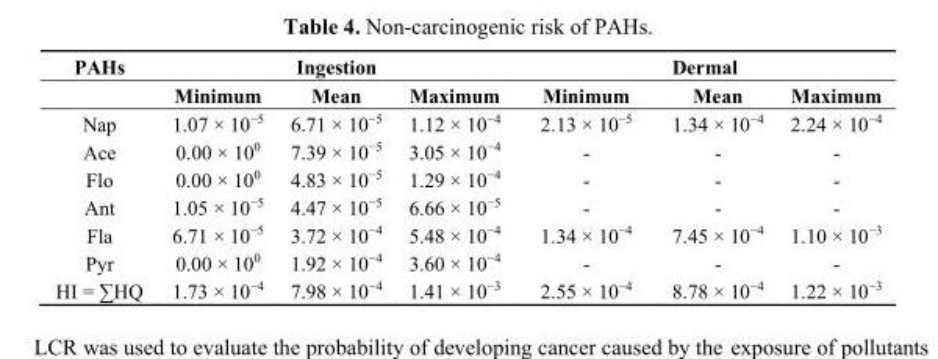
<table><thead><tr><td rowspan="2">PAHs</td><td colspan="3">Ingestion</td><td colspan="3">Dermal</td></tr><tr><td>Minimum</td><td>Mean</td><td>Maximum</td><td>Minimum</td><td>Mean</td><td>Maximum</td></tr></thead><tbody><tr><td>Nap</td><td>1.07 × 10<sup>−5</sup></td><td>6.71 × 10<sup>−5</sup></td><td>1.12 × 10<sup>−4</sup></td><td>2.13 × 10<sup>−5</sup></td><td>1.34 × 10<sup>−4</sup></td><td>2.24 × 10<sup>−4</sup></td></tr><tr><td>Ace</td><td>0.00 × 10<sup>0</sup></td><td>7.39 × 10<sup>−5</sup></td><td>3.05 × 10<sup>−4</sup></td><td>-</td><td>-</td><td>-</td></tr><tr><td>Flo</td><td>0.00 × 10<sup>0</sup></td><td>4.83 × 10<sup>−5</sup></td><td>1.29 × 10<sup>−4</sup></td><td>-</td><td>-</td><td>-</td></tr><tr><td>Ant</td><td>1.05 × 10<sup>−5</sup></td><td>4.47 × 10<sup>−5</sup></td><td>6.66 × 10<sup>−5</sup></td><td>-</td><td>-</td><td>-</td></tr><tr><td>Fla</td><td>6.71 × 10<sup>−5</sup></td><td>3.72 × 10<sup>−4</sup></td><td>5.48 × 10<sup>−4</sup></td><td>1.34 × 10<sup>−4</sup></td><td>7.45 × 10<sup>−4</sup></td><td>1.10 × 10<sup>−3</sup></td></tr><tr><td>Pyr</td><td>0.00 × 10<sup>0</sup></td><td>1.92 × 10<sup>−4</sup></td><td>3.60 × 10<sup>−4</sup></td><td>-</td><td>-</td><td>-</td></tr><tr><td>HI = ∑HQ</td><td>1.73 × 10<sup>−4</sup></td><td>7.98 × 10<sup>−4</sup></td><td>1.41 × 10<sup>−3</sup></td><td>2.55 × 10<sup>−4</sup></td><td>8.78 × 10<sup>−4</sup></td><td>1.22 × 10<sup>−3</sup></td></tr></tbody></table>